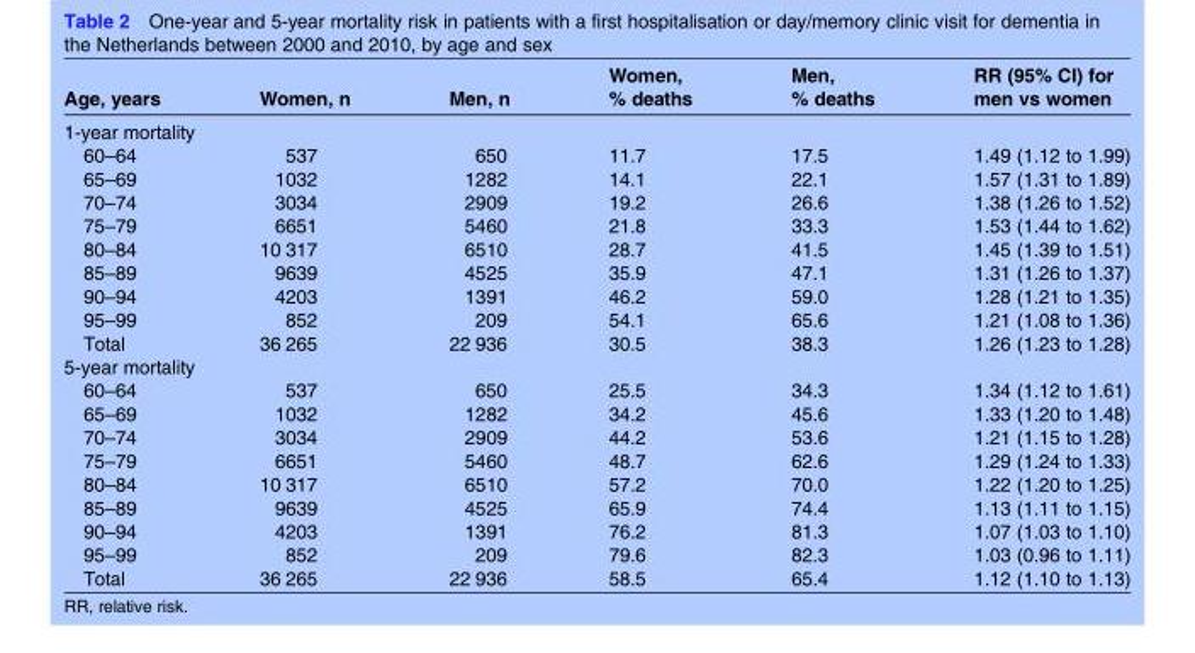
<table><thead><tr><td>Age, years</td><td>Women, n</td><td>Men, n</td><td>Women, % deaths</td><td>Men, % deaths</td><td>RR (95% CI) for men vs women</td></tr></thead><tbody><tr><td colspan="6">1-year mortality</td></tr><tr><td>60–64</td><td>537</td><td>650</td><td>11.7</td><td>17.5</td><td>1.49 (1.12 to 1.99)</td></tr><tr><td>65–69</td><td>1032</td><td>1282</td><td>14.1</td><td>22.1</td><td>1.57 (1.31 to 1.89)</td></tr><tr><td>70–74</td><td>3034</td><td>2909</td><td>19.2</td><td>26.6</td><td>1.38 (1.26 to 1.52)</td></tr><tr><td>75–79</td><td>6651</td><td>5460</td><td>21.8</td><td>33.3</td><td>1.53 (1.44 to 1.62)</td></tr><tr><td>80–84</td><td>10 317</td><td>6510</td><td>28.7</td><td>41.5</td><td>1.45 (1.39 to 1.51)</td></tr><tr><td>85–89</td><td>9639</td><td>4525</td><td>35.9</td><td>47.1</td><td>1.31 (1.26 to 1.37)</td></tr><tr><td>90–94</td><td>4203</td><td>1391</td><td>46.2</td><td>59.0</td><td>1.28 (1.21 to 1.35)</td></tr><tr><td>95–99</td><td>852</td><td>209</td><td>54.1</td><td>65.6</td><td>1.21 (1.08 to 1.36)</td></tr><tr><td>Total</td><td>36 265</td><td>22 936</td><td>30.5</td><td>38.3</td><td>1.26 (1.23 to 1.28)</td></tr><tr><td colspan="6">5-year mortality</td></tr><tr><td>60–64</td><td>537</td><td>650</td><td>25.5</td><td>34.3</td><td>1.34 (1.12 to 1.61)</td></tr><tr><td>65–69</td><td>1032</td><td>1282</td><td>34.2</td><td>45.6</td><td>1.33 (1.20 to 1.48)</td></tr><tr><td>70–74</td><td>3034</td><td>2909</td><td>44.2</td><td>53.6</td><td>1.21 (1.15 to 1.28)</td></tr><tr><td>75–79</td><td>6651</td><td>5460</td><td>48.7</td><td>62.6</td><td>1.29 (1.24 to 1.33)</td></tr><tr><td>80–84</td><td>10 317</td><td>6510</td><td>57.2</td><td>70.0</td><td>1.22 (1.20 to 1.25)</td></tr><tr><td>85–89</td><td>9639</td><td>4525</td><td>65.9</td><td>74.4</td><td>1.13 (1.11 to 1.15)</td></tr><tr><td>90–94</td><td>4203</td><td>1391</td><td>76.2</td><td>81.3</td><td>1.07 (1.03 to 1.10)</td></tr><tr><td>95–99</td><td>852</td><td>209</td><td>79.6</td><td>82.3</td><td>1.03 (0.96 to 1.11)</td></tr><tr><td>Total</td><td>36 265</td><td>22 936</td><td>58.5</td><td>65.4</td><td>1.12 (1.10 to 1.13)</td></tr></tbody></table>